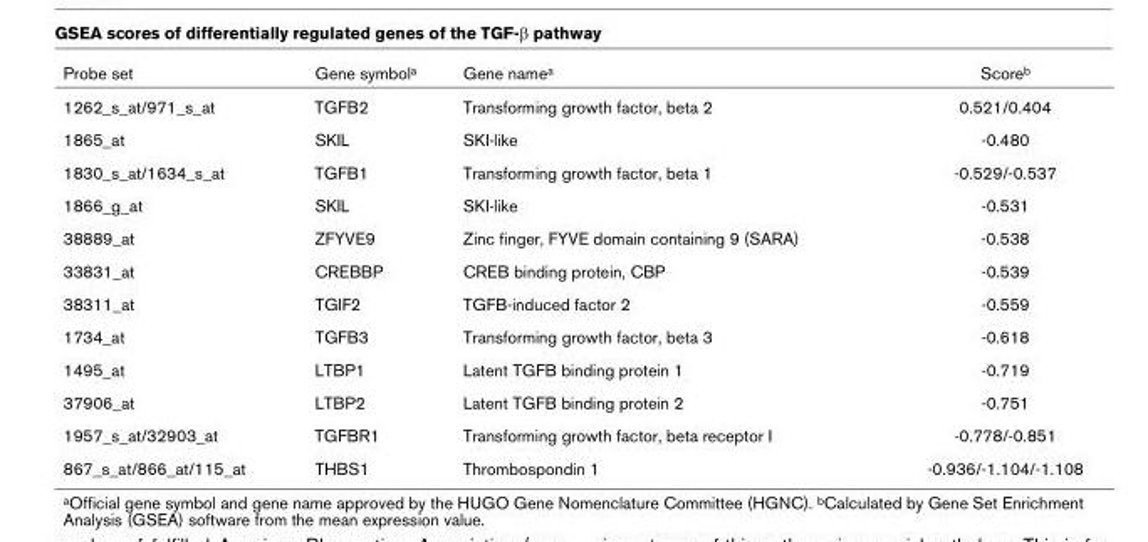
<table><thead><tr><td>Probe set</td><td>Gene symbol<sup>a</sup></td><td>Gene name<sup>a</sup></td><td>Score<sup>b</sup></td></tr></thead><tbody><tr><td>1262_s_at/971_s_at</td><td>TGFB2</td><td>Transforming growth factor, beta 2</td><td>0.521/0.404</td></tr><tr><td>1865_at</td><td>SKIL</td><td>SKI-like</td><td>-0.480</td></tr><tr><td>1830_s_at/1634_s_at</td><td>TGFB1</td><td>Transforming growth factor, beta 1</td><td>-0.529/-0.537</td></tr><tr><td>1866_g_at</td><td>SKIL</td><td>SKI-like</td><td>-0.531</td></tr><tr><td>38889_at</td><td>ZFYVE9</td><td>Zinc finger, FYVE domain containing 9 (SARA)</td><td>-0.538</td></tr><tr><td>33831_at</td><td>CREBBP</td><td>CREB binding protein, CBP</td><td>-0.539</td></tr><tr><td>38311_at</td><td>TGIF2</td><td>TGFB-induced factor 2</td><td>-0.559</td></tr><tr><td>1734_at</td><td>TGFB3</td><td>Transforming growth factor, beta 3</td><td>-0.618</td></tr><tr><td>1495_at</td><td>LTBP1</td><td>Latent TGFB binding protein 1</td><td>-0.719</td></tr><tr><td>37906_at</td><td>LTBP2</td><td>Latent TGFB binding protein 2</td><td>-0.751</td></tr><tr><td>1957_s_at/32903_at</td><td>TGFBR1</td><td>Transforming growth factor, beta receptor I</td><td>-0.778/-0.851</td></tr><tr><td>867_s_at/866_at/115_at</td><td>THBS1</td><td>Thrombospondin 1</td><td>-0.936/-1.104/-1.108</td></tr></tbody></table>